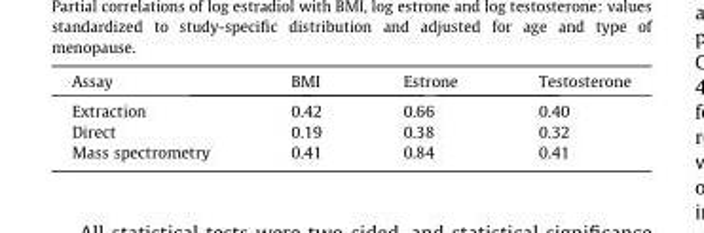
<table><thead><tr><td>Assay</td><td>BMI</td><td>Estrone</td><td>Testosterone</td></tr></thead><tbody><tr><td>Extraction</td><td>0.42</td><td>0.66</td><td>0.40</td></tr><tr><td>Direct</td><td>0.19</td><td>0.38</td><td>0.32</td></tr><tr><td>Mass spectrometry</td><td>0.41</td><td>0.84</td><td>0.41</td></tr></tbody></table>